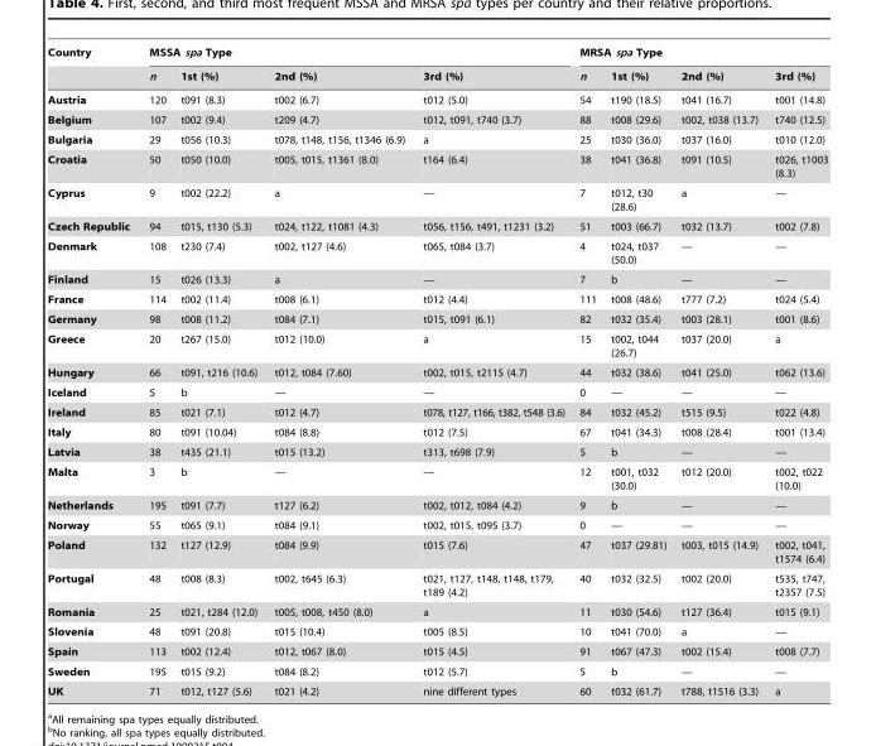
<table><thead><tr><td rowspan="2">Country</td><td colspan="4">MSSA spa Type</td><td colspan="4">MRSA spa Type</td></tr><tr><td>n</td><td>1st (%)</td><td>2nd (%)</td><td>3rd (%)</td><td>n</td><td>1st (%)</td><td>2nd (%)</td><td>3rd (%)</td></tr></thead><tbody><tr><td>Austria</td><td>120</td><td>t091 (8.3)</td><td>t002 (6.7)</td><td>t012 (5.0)</td><td>54</td><td>t190 (18.5)</td><td>t041 (16.7)</td><td>t001 (14.8)</td></tr><tr><td>Belgium</td><td>107</td><td>t002 (9.4)</td><td>t209 (4.7)</td><td>t012, t091, t740 (3.7)</td><td>88</td><td>t008 (29.6)</td><td>t002, t038 (13.7)</td><td>t740 (12.5)</td></tr><tr><td>Bulgaria</td><td>29</td><td>t056 (10.3)</td><td>t078, t148, t156, t1346 (6.9)</td><td>a</td><td>25</td><td>t030 (36.0)</td><td>t037 (16.0)</td><td>t010 (12.0)</td></tr><tr><td>Croatia</td><td>50</td><td>t050 (10.0)</td><td>t005, t015, t1361 (8.0)</td><td>t164 (6.4)</td><td>38</td><td>t041 (36.8)</td><td>t091 (10.5)</td><td>t026, t1003 (8.3)</td></tr><tr><td>Cyprus</td><td>9</td><td>t002 (22.2)</td><td>a</td><td>—</td><td>7</td><td>t012, t30 (28.6)</td><td>a</td><td>—</td></tr><tr><td>Czech Republic</td><td>94</td><td>t015, t130 (5.3)</td><td>t024, t122, t1081 (4.3)</td><td>t056, t156, t491, t1231 (3.2)</td><td>51</td><td>t003 (66.7)</td><td>t032 (13.7)</td><td>t002 (7.8)</td></tr><tr><td>Denmark</td><td>108</td><td>t230 (7.4)</td><td>t002, t127 (4.6)</td><td>t065, t084 (3.7)</td><td>4</td><td>t024, t037 (50.0)</td><td>—</td><td>—</td></tr><tr><td>Finland</td><td>15</td><td>t026 (13.3)</td><td>a</td><td>—</td><td>7</td><td>b</td><td>—</td><td>—</td></tr><tr><td>France</td><td>114</td><td>t002 (11.4)</td><td>t008 (6.1)</td><td>t012 (4.4)</td><td>111</td><td>t008 (48.6)</td><td>t777 (7.2)</td><td>t024 (5.4)</td></tr><tr><td>Germany</td><td>98</td><td>t008 (11.2)</td><td>t084 (7.1)</td><td>t015, t091 (6.1)</td><td>82</td><td>t032 (35.4)</td><td>t003 (28.1)</td><td>t001 (8.6)</td></tr><tr><td>Greece</td><td>20</td><td>t267 (15.0)</td><td>t012 (10.0)</td><td>a</td><td>15</td><td>t002, t044 (26.7)</td><td>t037 (20.0)</td><td>a</td></tr><tr><td>Hungary</td><td>66</td><td>t091, t216 (10.6)</td><td>t012, t084 (7.60)</td><td>t002, t015, t2115 (4.7)</td><td>44</td><td>t032 (38.6)</td><td>t041 (25.0)</td><td>t062 (13.6)</td></tr><tr><td>Iceland</td><td>5</td><td>b</td><td>—</td><td>—</td><td>0</td><td>—</td><td>—</td><td>—</td></tr><tr><td>Ireland</td><td>85</td><td>t021 (7.1)</td><td>t012 (4.7)</td><td>t078, t127, t166, t382, t548 (3.6)</td><td>84</td><td>t032 (45.2)</td><td>t515 (9.5)</td><td>t022 (4.8)</td></tr><tr><td>Italy</td><td>80</td><td>t091 (10.04)</td><td>t084 (8.8)</td><td>t012 (7.5)</td><td>67</td><td>t041 (34.3)</td><td>t008 (28.4)</td><td>t001 (13.4)</td></tr><tr><td>Latvia</td><td>38</td><td>t435 (21.1)</td><td>t015 (13.2)</td><td>t313, t698 (7.9)</td><td>5</td><td>b</td><td>—</td><td>—</td></tr><tr><td>Malta</td><td>3</td><td>b</td><td>—</td><td>—</td><td>12</td><td>t001, t032 (30.0)</td><td>t012 (20.0)</td><td>t002, t022 (10.0)</td></tr><tr><td>Netherlands</td><td>195</td><td>t091 (7.7)</td><td>t127 (6.2)</td><td>t002, t012, t084 (4.2)</td><td>9</td><td>b</td><td>—</td><td>—</td></tr><tr><td>Norway</td><td>55</td><td>t065 (9.1)</td><td>t084 (9.1)</td><td>t002, t015, t095 (3.7)</td><td>0</td><td>—</td><td>—</td><td>—</td></tr><tr><td>Poland</td><td>132</td><td>t127 (12.9)</td><td>t084 (9.9)</td><td>t015 (7.6)</td><td>47</td><td>t037 (29.81)</td><td>t003, t015 (14.9)</td><td>t002, t041, t1574 (6.4)</td></tr><tr><td>Portugal</td><td>48</td><td>t008 (8.3)</td><td>t002, t645 (6.3)</td><td>t021, t127, t148, t148, t179, t189 (4.2)</td><td>40</td><td>t032 (32.5)</td><td>t002 (20.0)</td><td>t535, t747, t2357 (7.5)</td></tr><tr><td>Romania</td><td>25</td><td>t021, t284 (12.0)</td><td>t005, t008, t450 (8.0)</td><td>a</td><td>11</td><td>t030 (54.6)</td><td>t127 (36.4)</td><td>t015 (9.1)</td></tr><tr><td>Slovenia</td><td>48</td><td>t091 (20.8)</td><td>t015 (10.4)</td><td>t005 (8.5)</td><td>10</td><td>t041 (70.0)</td><td>a</td><td>—</td></tr><tr><td>Spain</td><td>113</td><td>t002 (12.4)</td><td>t012, t067 (8.0)</td><td>t015 (4.5)</td><td>91</td><td>t067 (47.3)</td><td>t002 (15.4)</td><td>t008 (7.7)</td></tr><tr><td>Sweden</td><td>195</td><td>t015 (9.2)</td><td>t084 (8.2)</td><td>t012 (5.7)</td><td>5</td><td>b</td><td>—</td><td>—</td></tr><tr><td>UK</td><td>71</td><td>t012, t127 (5.6)</td><td>t021 (4.2)</td><td>nine different types</td><td>60</td><td>t032 (61.7)</td><td>t788, t1516 (3.3)</td><td>a</td></tr></tbody></table>